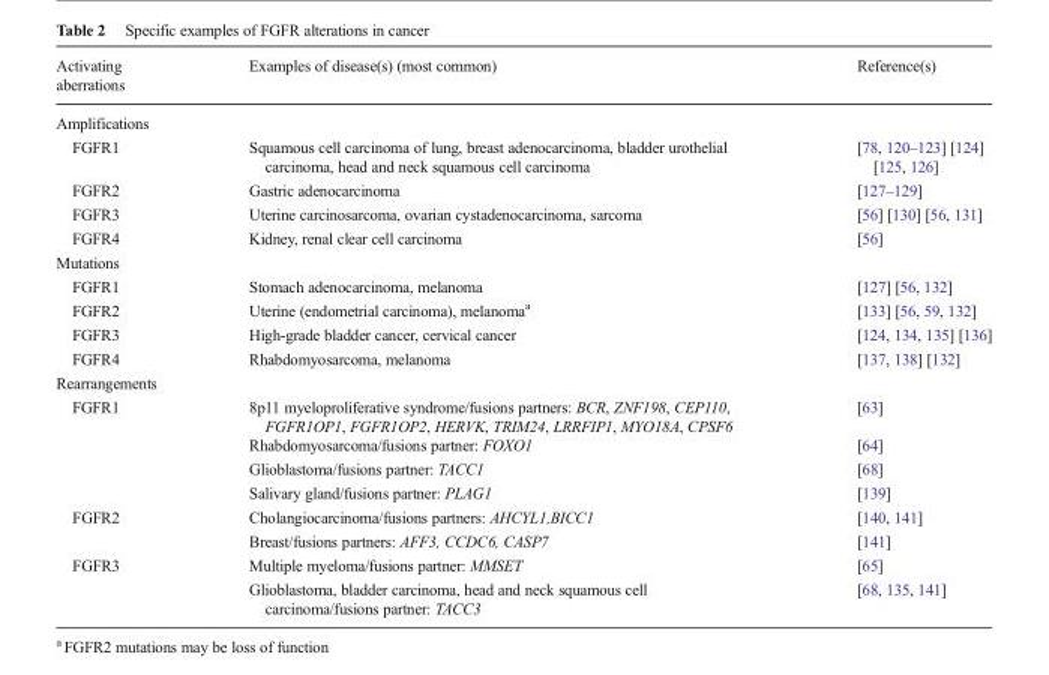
<table><thead><tr><td>Activating aberrations</td><td>Examples of disease(s) (most common)</td><td>Reference(s)</td></tr></thead><tbody><tr><td colspan="3">Amplifications</td></tr><tr><td>FGFR1</td><td>Squamous cell carcinoma of lung, breast adenocarcinoma, bladder urothelial carcinoma, head and neck squamous cell carcinoma</td><td>[78, 120–123] [124] [125, 126]</td></tr><tr><td>FGFR2</td><td>Gastric adenocarcinoma</td><td>[127–129]</td></tr><tr><td>FGFR3</td><td>Uterine carcinosarcoma, ovarian cystadenocarcinoma, sarcoma</td><td>[56] [130] [56, 131]</td></tr><tr><td>FGFR4</td><td>Kidney, renal clear cell carcinoma</td><td>[56]</td></tr><tr><td colspan="3">Mutations</td></tr><tr><td>FGFR1</td><td>Stomach adenocarcinoma, melanoma</td><td>[127] [56, 132]</td></tr><tr><td>FGFR2</td><td>Uterine (endometrial carcinoma), melanoma<sup>a</sup></td><td>[133] [56, 59, 132]</td></tr><tr><td>FGFR3</td><td>High-grade bladder cancer, cervical cancer</td><td>[124, 134, 135] [136]</td></tr><tr><td>FGFR4</td><td>Rhabdomyosarcoma, melanoma</td><td>[137, 138] [132]</td></tr><tr><td colspan="3">Rearrangements</td></tr><tr><td rowspan="4">FGFR1</td><td>8p11 myeloproliferative syndrome/fusions partners: BCR, ZNF198, CEP110, FGFR1OP1, FGFR1OP2, HERVK, TRIM24, LRRFIP1, MYO18A, CPSF6</td><td>[63]</td></tr><tr><td>Rhabdomyosarcoma/fusions partner: FOXO1</td><td>[64]</td></tr><tr><td>Glioblastoma/fusions partner: TACC1</td><td>[68]</td></tr><tr><td>Salivary gland/fusions partner: PLAG1</td><td>[139]</td></tr><tr><td rowspan="2">FGFR2</td><td>Cholangiocarcinoma/fusions partners: AHCYL1,BICC1</td><td>[140, 141]</td></tr><tr><td>Breast/fusions partners: AFF3, CCDC6, CASP7</td><td>[141]</td></tr><tr><td rowspan="2">FGFR3</td><td>Multiple myeloma/fusions partner: MMSET</td><td>[65]</td></tr><tr><td>Glioblastoma, bladder carcinoma, head and neck squamous cell carcinoma/fusions partner: TACC3</td><td>[68, 135, 141]</td></tr></tbody></table>